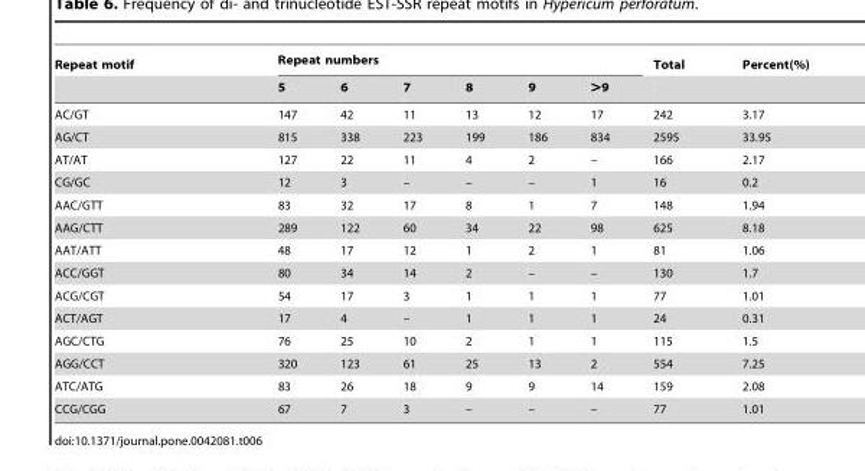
<table><thead><tr><td rowspan="2">Repeat motif</td><td colspan="6">Repeat numbers</td><td rowspan="2">Total</td><td rowspan="2">Percent(%)</td></tr><tr><td>5</td><td>6</td><td>7</td><td>8</td><td>9</td><td>&gt;9</td></tr></thead><tbody><tr><td>AC/GT</td><td>147</td><td>42</td><td>11</td><td>13</td><td>12</td><td>17</td><td>242</td><td>3.17</td></tr><tr><td>AG/CT</td><td>815</td><td>338</td><td>223</td><td>199</td><td>186</td><td>834</td><td>2595</td><td>33.95</td></tr><tr><td>AT/AT</td><td>127</td><td>22</td><td>11</td><td>4</td><td>2</td><td>–</td><td>166</td><td>2.17</td></tr><tr><td>CG/GC</td><td>12</td><td>3</td><td>–</td><td>–</td><td>–</td><td>1</td><td>16</td><td>0.2</td></tr><tr><td>AAC/GTT</td><td>83</td><td>32</td><td>17</td><td>8</td><td>1</td><td>7</td><td>148</td><td>1.94</td></tr><tr><td>AAG/CTT</td><td>289</td><td>122</td><td>60</td><td>34</td><td>22</td><td>98</td><td>625</td><td>8.18</td></tr><tr><td>AAT/ATT</td><td>48</td><td>17</td><td>12</td><td>1</td><td>2</td><td>1</td><td>81</td><td>1.06</td></tr><tr><td>ACC/GGT</td><td>80</td><td>34</td><td>14</td><td>2</td><td>–</td><td>–</td><td>130</td><td>1.7</td></tr><tr><td>ACG/CGT</td><td>54</td><td>17</td><td>3</td><td>1</td><td>1</td><td>1</td><td>77</td><td>1.01</td></tr><tr><td>ACT/AGT</td><td>17</td><td>4</td><td>–</td><td>1</td><td>1</td><td>1</td><td>24</td><td>0.31</td></tr><tr><td>AGC/CTG</td><td>76</td><td>25</td><td>10</td><td>2</td><td>1</td><td>1</td><td>115</td><td>1.5</td></tr><tr><td>AGG/CCT</td><td>320</td><td>123</td><td>61</td><td>25</td><td>13</td><td>2</td><td>554</td><td>7.25</td></tr><tr><td>ATC/ATG</td><td>83</td><td>26</td><td>18</td><td>9</td><td>9</td><td>14</td><td>159</td><td>2.08</td></tr><tr><td>CCG/CGG</td><td>67</td><td>7</td><td>3</td><td>–</td><td>–</td><td>–</td><td>77</td><td>1.01</td></tr></tbody></table>